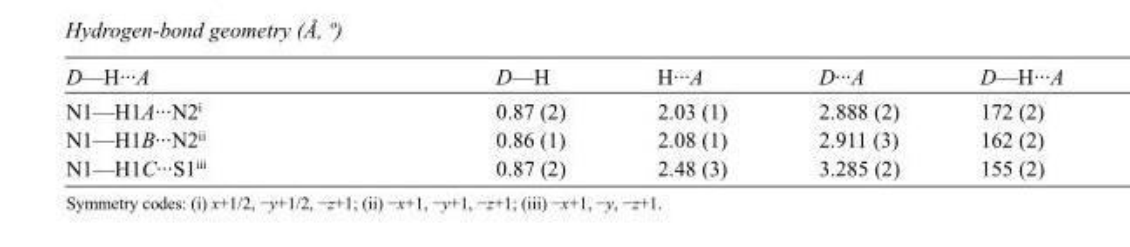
<table><tbody><tr><td>D—H···A</td><td>D—H</td><td>H···A</td><td>D···A</td><td>D—H···A</td></tr><tr><td>N1—H1A···N2<sup>i</sup></td><td>0.87 (2)</td><td>2.03 (1)</td><td>2.888 (2)</td><td>172 (2)</td></tr><tr><td>N1—H1B···N2<sup>ii</sup></td><td>0.86 (1)</td><td>2.08 (1)</td><td>2.911 (3)</td><td>162 (2)</td></tr><tr><td>N1—H1C···S1<sup>iii</sup></td><td>0.87 (2)</td><td>2.48 (3)</td><td>3.285 (2)</td><td>155 (2)</td></tr></tbody></table>